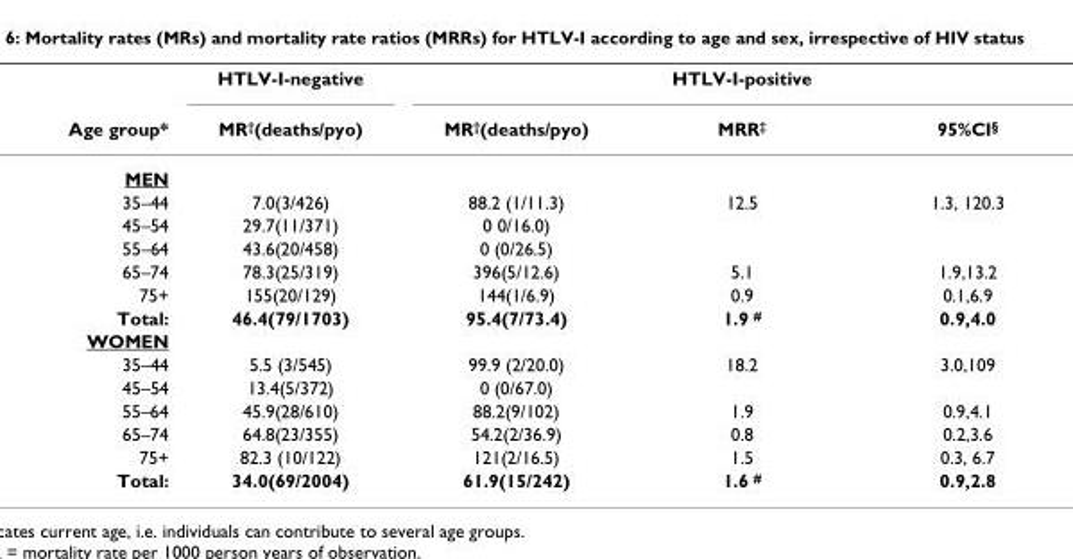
<table><thead><tr><td rowspan="2">Age group*</td><td rowspan="2">HTLV-I-negative MR<sup>†</sup>(deaths/pyo)</td><td colspan="3">HTLV-I-positive</td></tr><tr><td>MR<sup>†</sup>(deaths/pyo)</td><td>MRR<sup>‡</sup></td><td>95%CI<sup>§</sup></td></tr></thead><tbody><tr><td colspan="5">MEN</td></tr><tr><td>35–44</td><td>7.0(3/426)</td><td>88.2 (1/11.3)</td><td>12.5</td><td>1.3, 120.3</td></tr><tr><td>45–54</td><td>29.7(11/371)</td><td>0 0/16.0)</td><td></td><td></td></tr><tr><td>55–64</td><td>43.6(20/458)</td><td>0 (0/26.5)</td><td></td><td></td></tr><tr><td>65–74</td><td>78.3(25/319)</td><td>396(5/12.6)</td><td>5.1</td><td>1.9,13.2</td></tr><tr><td>75+</td><td>155(20/129)</td><td>144(1/6.9)</td><td>0.9</td><td>0.1,6.9</td></tr><tr><td>Total:</td><td>46.4(79/1703)</td><td>95.4(7/73.4)</td><td>1.9 <sup>#</sup></td><td>0.9,4.0</td></tr><tr><td colspan="5">WOMEN</td></tr><tr><td>35–44</td><td>5.5 (3/545)</td><td>99.9 (2/20.0)</td><td>18.2</td><td>3.0,109</td></tr><tr><td>45–54</td><td>13.4(5/372)</td><td>0 (0/67.0)</td><td></td><td></td></tr><tr><td>55–64</td><td>45.9(28/610)</td><td>88.2(9/102)</td><td>1.9</td><td>0.9,4.1</td></tr><tr><td>65–74</td><td>64.8(23/355)</td><td>54.2(2/36.9)</td><td>0.8</td><td>0.2,3.6</td></tr><tr><td>75+</td><td>82.3 (10/122)</td><td>121(2/16.5)</td><td>1.5</td><td>0.3, 6.7</td></tr><tr><td>Total:</td><td>34.0(69/2004)</td><td>61.9(15/242)</td><td>1.6 <sup>#</sup></td><td>0.9,2.8</td></tr></tbody></table>